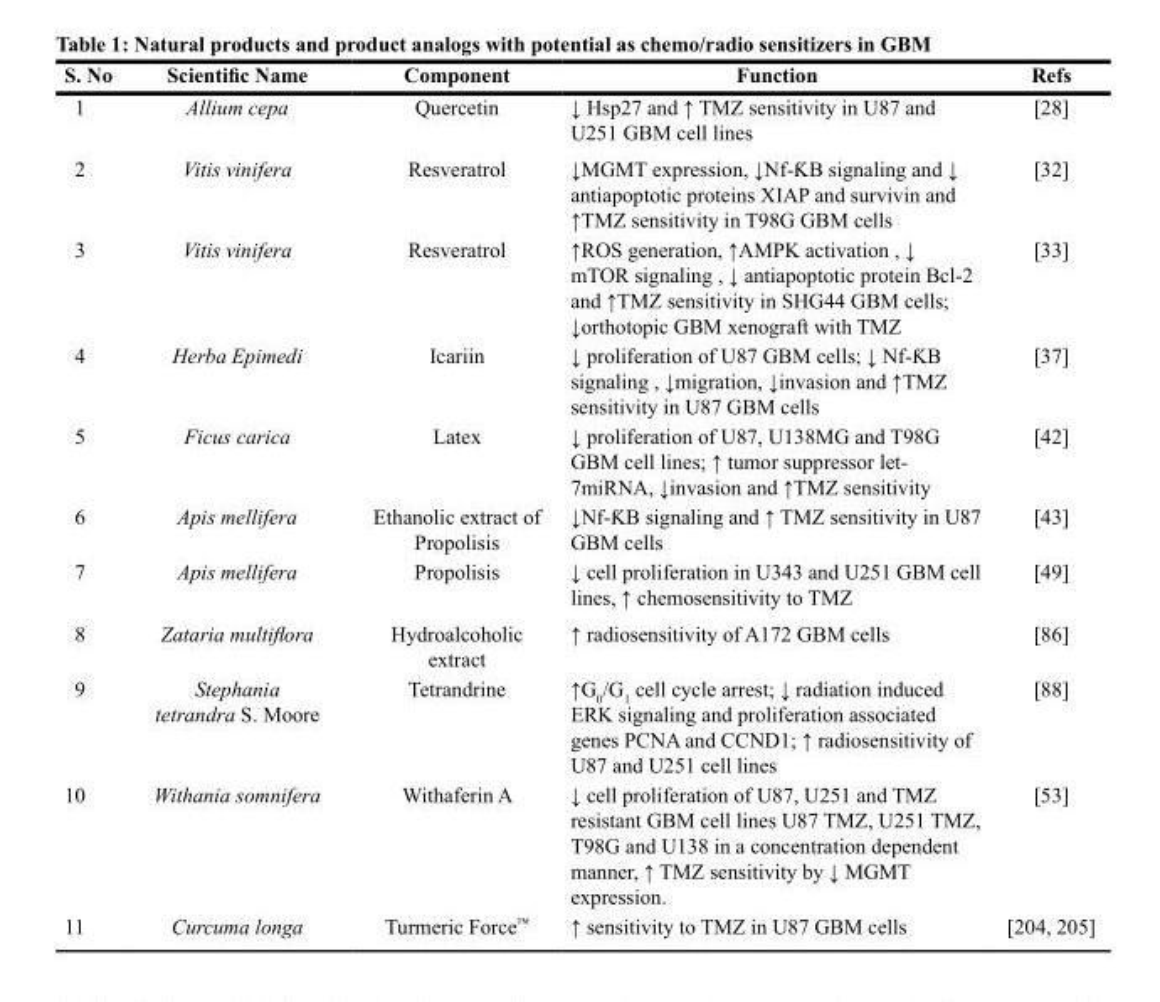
<table><thead><tr><td>S. No</td><td>Scientific Name</td><td>Component</td><td>Function</td><td>Refs</td></tr></thead><tbody><tr><td>1</td><td>Allium cepa</td><td>Quercetin</td><td>↓ Hsp27 and ↑ TMZ sensitivity in U87 and U251 GBM cell lines</td><td>[28]</td></tr><tr><td>2</td><td>Vitis vinifera</td><td>Resveratrol</td><td>↓MGMT expression, ↓Nf-ƘB signaling and ↓ antiapoptotic proteins XIAP and survivin and ↑TMZ sensitivity in T98G GBM cells</td><td>[32]</td></tr><tr><td>3</td><td>Vitis vinifera</td><td>Resveratrol</td><td>↑ROS generation, ↑AMPK activation , ↓ mTOR signaling , ↓ antiapoptotic protein Bcl-2 and ↑TMZ sensitivity in SHG44 GBM cells; ↓orthotopic GBM xenograft with TMZ</td><td>[33]</td></tr><tr><td>4</td><td>Herba Epimedi</td><td>Icariin</td><td>↓ proliferation of U87 GBM cells; ↓ Nf-ƘB signaling , ↓migration, ↓invasion and ↑TMZ sensitivity in U87 GBM cells</td><td>[37]</td></tr><tr><td>5</td><td>Ficus carica</td><td>Latex</td><td>↓ proliferation of U87, U138MG and T98G GBM cell lines; ↑ tumor suppressor let- 7miRNA, ↓invasion and ↑TMZ sensitivity</td><td>[42]</td></tr><tr><td>6</td><td>Apis mellifera</td><td>Ethanolic extract of Propolisis</td><td>↓Nf-ƘB signaling and ↑ TMZ sensitivity in U87 GBM cells</td><td>[43]</td></tr><tr><td>7</td><td>Apis mellifera</td><td>Propolisis</td><td>↓ cell proliferation in U343 and U251 GBM cell lines, ↑ chemosensitivity to TMZ</td><td>[49]</td></tr><tr><td>8</td><td>Zataria multiflora</td><td>Hydroalcoholic extract</td><td>↑ radiosensitivity of A172 GBM cells</td><td>[86]</td></tr><tr><td>9</td><td>Stephania tetrandra S. Moore</td><td>Tetrandrine</td><td>↑G<sub>0</sub>/G<sub>1</sub> cell cycle arrest; ↓ radiation induced ERK signaling and proliferation associated genes PCNA and CCND1; ↑ radiosensitivity of U87 and U251 cell lines</td><td>[88]</td></tr><tr><td>10</td><td>Withania somnifera</td><td>Withaferin A</td><td>↓ cell proliferation of U87, U251 and TMZ resistant GBM cell lines U87 TMZ, U251 TMZ, T98G and U138 in a concentration dependent manner, ↑ TMZ sensitivity by ↓ MGMT expression.</td><td>[53]</td></tr><tr><td>11</td><td>Curcuma longa</td><td>Turmeric Force<sup>™</sup></td><td>↑ sensitivity to TMZ in U87 GBM cells</td><td>[204, 205]</td></tr></tbody></table>